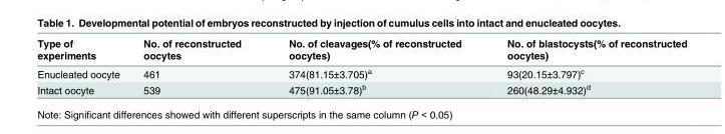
<table><thead><tr><td>Type of experiments</td><td>No. of reconstructed oocytes</td><td>No. of cleavages(% of reconstructed oocytes)</td><td>No. of blastocysts(% of reconstructed oocytes)</td></tr></thead><tbody><tr><td>Enucleated oocyte</td><td>461</td><td>374(81.15±3.705)<sup>a</sup></td><td>93(20.15±3.797)<sup>c</sup></td></tr><tr><td>Intact oocyte</td><td>539</td><td>475(91.05±3.78)<sup>b</sup></td><td>260(48.29±4.932)<sup>d</sup></td></tr></tbody></table>